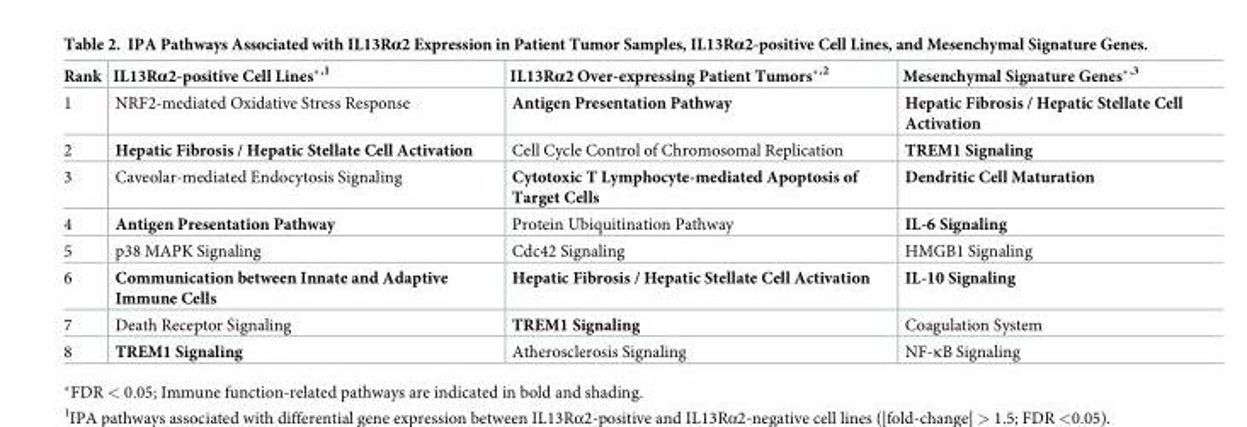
<table><thead><tr><td>Rank</td><td>IL13Rα2-positive Cell Lines*<sup>,1</sup></td><td>IL13Rα2 Over-expressing Patient Tumors*<sup>,2</sup></td><td>Mesenchymal Signature Genes*<sup>,3</sup></td></tr></thead><tbody><tr><td>1</td><td>NRF2-mediated Oxidative Stress Response</td><td>Antigen Presentation Pathway</td><td>Hepatic Fibrosis / Hepatic Stellate Cell Activation</td></tr><tr><td>2</td><td>Hepatic Fibrosis / Hepatic Stellate Cell Activation</td><td>Cell Cycle Control of Chromosomal Replication</td><td>TREM1 Signaling</td></tr><tr><td>3</td><td>Caveolar-mediated Endocytosis Signaling</td><td>Cytotoxic T Lymphocyte-mediated Apoptosis of Target Cells</td><td>Dendritic Cell Maturation</td></tr><tr><td>4</td><td>Antigen Presentation Pathway</td><td>Protein Ubiquitination Pathway</td><td>IL-6 Signaling</td></tr><tr><td>5</td><td>p38 MAPK Signaling</td><td>Cdc42 Signaling</td><td>HMGB1 Signaling</td></tr><tr><td>6</td><td>Communication between Innate and Adaptive Immune Cells</td><td>Hepatic Fibrosis / Hepatic Stellate Cell Activation</td><td>IL-10 Signaling</td></tr><tr><td>7</td><td>Death Receptor Signaling</td><td>TREM1 Signaling</td><td>Coagulation System</td></tr><tr><td>8</td><td>TREM1 Signaling</td><td>Atherosclerosis Signaling</td><td>NF-κB Signaling</td></tr></tbody></table>